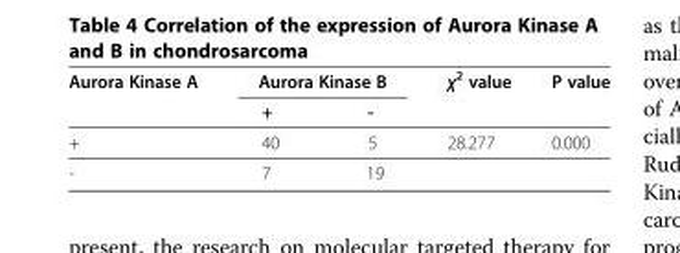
<table><thead><tr><td rowspan="2">Aurora Kinase A</td><td colspan="2">Aurora Kinase B</td><td rowspan="2">χ<sup>2</sup> value</td><td rowspan="2">P value</td></tr><tr><td>+</td><td>-</td></tr></thead><tbody><tr><td>+</td><td>40</td><td>5</td><td>28.277</td><td>0.000</td></tr><tr><td>-</td><td>7</td><td>19</td><td></td><td></td></tr></tbody></table>